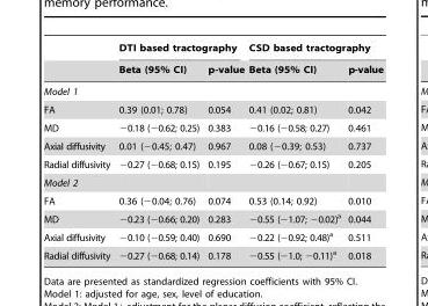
<table><thead><tr><td rowspan="2"></td><td colspan="2">DTI based tractography</td><td colspan="2">CSD based tractography</td></tr><tr><td>Beta (95% CI)</td><td>p-value</td><td>Beta (95% CI)</td><td>p-value</td></tr></thead><tbody><tr><td colspan="5">Model 1</td></tr><tr><td>FA</td><td>0.39 (0.01; 0.78)</td><td>0.054</td><td>0.41 (0.02; 0.81)</td><td>0.042</td></tr><tr><td>MD</td><td>−0.18 (−0.62; 0.25)</td><td>0.383</td><td>−0.16 (−0.58; 0.27)</td><td>0.461</td></tr><tr><td>Axial diffusivity</td><td>0.01 (−0.45; 0.47)</td><td>0.967</td><td>0.08 (−0.39; 0.53)</td><td>0.737</td></tr><tr><td>Radial diffusivity</td><td>−0.27 (−0.68; 0.15)</td><td>0.195</td><td>−0.26 (−0.67; 0.15)</td><td>0.205</td></tr><tr><td colspan="5">Model 2</td></tr><tr><td>FA</td><td>0.36 (−0.04; 0.76)</td><td>0.074</td><td>0.53 (0.14; 0.92)</td><td>0.010</td></tr><tr><td>MD</td><td>−0.23 (−0.66; 0.20)</td><td>0.283</td><td>−0.55 (−1.07; −0.02)<sup>a</sup></td><td>0.044</td></tr><tr><td>Axial diffusivity</td><td>−0.10 (−0.59; 0.40)</td><td>0.690</td><td>−0.22 (−0.92; 0.48)<sup>a</sup></td><td>0.511</td></tr><tr><td>Radial diffusivity</td><td>−0.27 (−0.68; 0.14)</td><td>0.178</td><td>−0.55 (−1.0; −0.11)<sup>a</sup></td><td>0.018</td></tr></tbody></table>